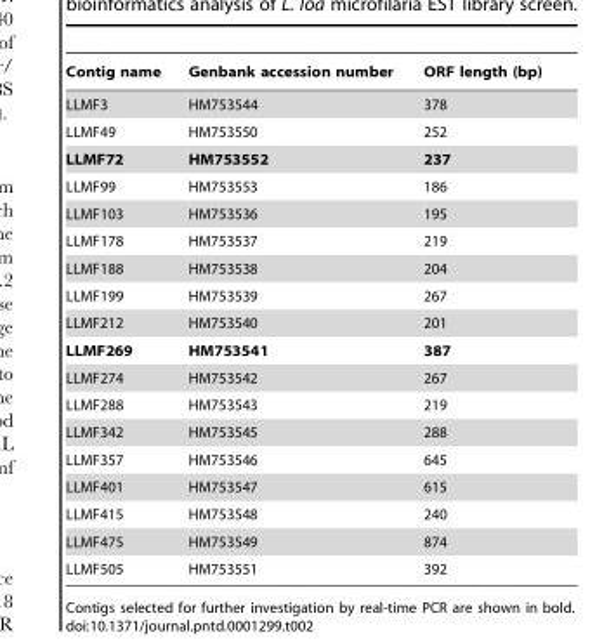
<table><thead><tr><td>Contig name</td><td>Genbank accession number</td><td>ORF length (bp)</td></tr></thead><tbody><tr><td>LLMF3</td><td>HM753544</td><td>378</td></tr><tr><td>LLMF49</td><td>HM753550</td><td>252</td></tr><tr><td>LLMF72</td><td>HM753552</td><td>237</td></tr><tr><td>LLMF99</td><td>HM753553</td><td>186</td></tr><tr><td>LLMF103</td><td>HM753536</td><td>195</td></tr><tr><td>LLMF178</td><td>HM753537</td><td>219</td></tr><tr><td>LLMF188</td><td>HM753538</td><td>204</td></tr><tr><td>LLMF199</td><td>HM753539</td><td>267</td></tr><tr><td>LLMF212</td><td>HM753540</td><td>201</td></tr><tr><td>LLMF269</td><td>HM753541</td><td>387</td></tr><tr><td>LLMF274</td><td>HM753542</td><td>267</td></tr><tr><td>LLMF288</td><td>HM753543</td><td>219</td></tr><tr><td>LLMF342</td><td>HM753545</td><td>288</td></tr><tr><td>LLMF357</td><td>HM753546</td><td>645</td></tr><tr><td>LLMF401</td><td>HM753547</td><td>615</td></tr><tr><td>LLMF415</td><td>HM753548</td><td>240</td></tr><tr><td>LLMF475</td><td>HM753549</td><td>874</td></tr><tr><td>LLMF505</td><td>HM753551</td><td>392</td></tr></tbody></table>